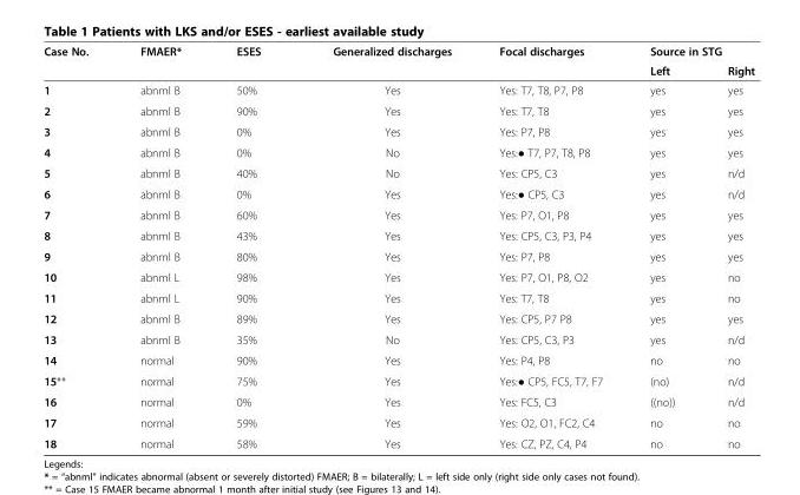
<table><thead><tr><td rowspan="2">Case No.</td><td rowspan="2">FMAER*</td><td rowspan="2">ESES</td><td rowspan="2">Generalized discharges</td><td rowspan="2">Focal discharges</td><td colspan="2">Source in STG</td></tr><tr><td>Left</td><td>Right</td></tr></thead><tbody><tr><td>1</td><td>abnml B</td><td>50%</td><td>Yes</td><td>Yes: T7, T8, P7, P8</td><td>yes</td><td>yes</td></tr><tr><td>2</td><td>abnml B</td><td>90%</td><td>Yes</td><td>Yes: T7, T8</td><td>yes</td><td>yes</td></tr><tr><td>3</td><td>abnml B</td><td>0%</td><td>Yes</td><td>Yes: P7, P8</td><td>yes</td><td>yes</td></tr><tr><td>4</td><td>abnml B</td><td>0%</td><td>No</td><td>Yes:● T7, P7, T8, P8</td><td>yes</td><td>yes</td></tr><tr><td>5</td><td>abnml B</td><td>40%</td><td>No</td><td>Yes: CP5, C3</td><td>yes</td><td>n/d</td></tr><tr><td>6</td><td>abnml B</td><td>0%</td><td>Yes</td><td>Yes:● CP5, C3</td><td>yes</td><td>n/d</td></tr><tr><td>7</td><td>abnml B</td><td>60%</td><td>Yes</td><td>Yes: P7, O1, P8</td><td>yes</td><td>yes</td></tr><tr><td>8</td><td>abnml B</td><td>43%</td><td>Yes</td><td>Yes: CP5, C3, P3, P4</td><td>yes</td><td>yes</td></tr><tr><td>9</td><td>abnml B</td><td>80%</td><td>Yes</td><td>Yes: P7, P8</td><td>yes</td><td>yes</td></tr><tr><td>10</td><td>abnml L</td><td>98%</td><td>Yes</td><td>Yes: P7, O1, P8, O2</td><td>yes</td><td>no</td></tr><tr><td>11</td><td>abnml L</td><td>90%</td><td>Yes</td><td>Yes: T7, T8</td><td>yes</td><td>no</td></tr><tr><td>12</td><td>abnml B</td><td>89%</td><td>Yes</td><td>Yes: CP5, P7 P8</td><td>yes</td><td>yes</td></tr><tr><td>13</td><td>abnml B</td><td>35%</td><td>No</td><td>Yes: CP5, C3, P3</td><td>yes</td><td>n/d</td></tr><tr><td>14</td><td>normal</td><td>90%</td><td>Yes</td><td>Yes: P4, P8</td><td>no</td><td>no</td></tr><tr><td>15**</td><td>normal</td><td>75%</td><td>Yes</td><td>Yes:● CP5, FC5, T7, F7</td><td>(no)</td><td>n/d</td></tr><tr><td>16</td><td>normal</td><td>0%</td><td>Yes</td><td>Yes: FC5, C3</td><td>((no))</td><td>n/d</td></tr><tr><td>17</td><td>normal</td><td>59%</td><td>Yes</td><td>Yes: O2, O1, FC2, C4</td><td>no</td><td>no</td></tr><tr><td>18</td><td>normal</td><td>58%</td><td>Yes</td><td>Yes: CZ, PZ, C4, P4</td><td>no</td><td>no</td></tr></tbody></table>